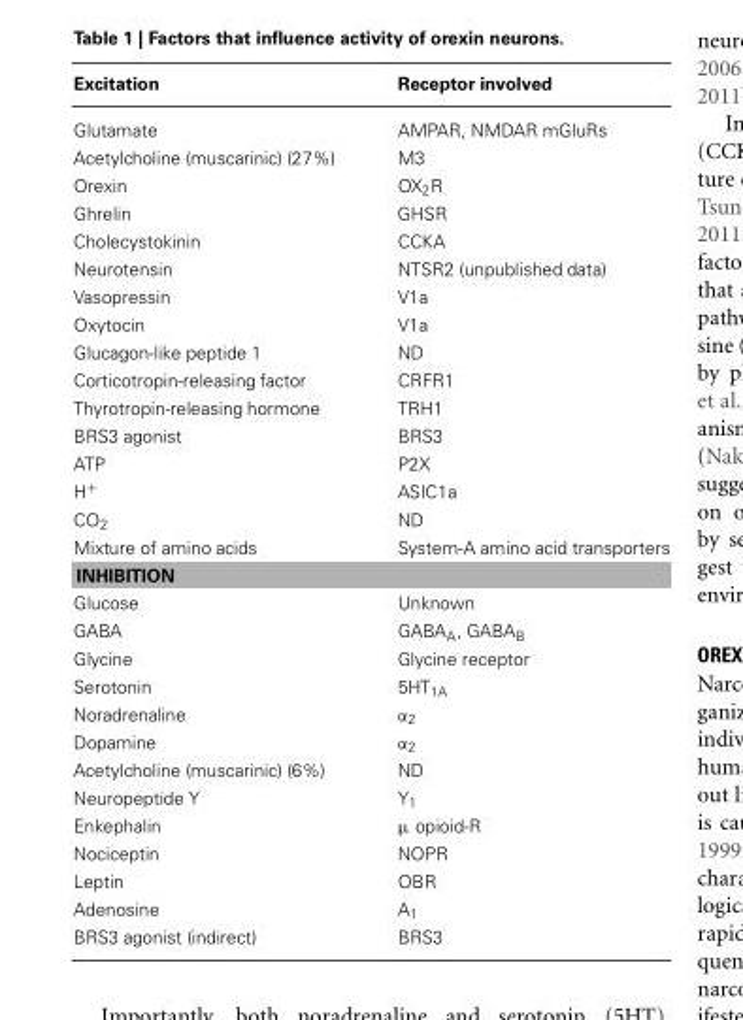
<table><thead><tr><td>Excitation</td><td>Receptor involved</td></tr></thead><tbody><tr><td>Glutamate</td><td>AMPAR, NMDAR mGluRs</td></tr><tr><td>Acetylcholine (muscarinic) (27%)</td><td>M3</td></tr><tr><td>Orexin</td><td>OX<sub>2</sub>R</td></tr><tr><td>Ghrelin</td><td>GHSR</td></tr><tr><td>Cholecystokinin</td><td>CCKA</td></tr><tr><td>Neurotensin</td><td>NTSR2 (unpublished data)</td></tr><tr><td>Vasopressin</td><td>V1a</td></tr><tr><td>Oxytocin</td><td>V1a</td></tr><tr><td>Glucagon-like peptide 1</td><td>ND</td></tr><tr><td>Corticotropin-releasing factor</td><td>CRFR1</td></tr><tr><td>Thyrotropin-releasing hormone</td><td>TRH1</td></tr><tr><td>BRS3 agonist</td><td>BRS3</td></tr><tr><td>ATP</td><td>P2X</td></tr><tr><td>H<sup>+</sup></td><td>ASIC1a</td></tr><tr><td>CO<sub>2</sub></td><td>ND</td></tr><tr><td>Mixture of amino acids</td><td>System-A amino acid transporters</td></tr><tr><td colspan="2">INHIBITION</td></tr><tr><td>Glucose</td><td>Unknown</td></tr><tr><td>GABA</td><td>GABA<sub>A</sub>, GABA<sub>B</sub></td></tr><tr><td>Glycine</td><td>Glycine receptor</td></tr><tr><td>Serotonin</td><td>5HT<sub>1A</sub></td></tr><tr><td>Noradrenaline</td><td>α<sub>2</sub></td></tr><tr><td>Dopamine</td><td>α<sub>2</sub></td></tr><tr><td>Acetylcholine (muscarinic) (6%)</td><td>ND</td></tr><tr><td>Neuropeptide Y</td><td>Y<sub>1</sub></td></tr><tr><td>Enkephalin</td><td>μ opioid-R</td></tr><tr><td>Nociceptin</td><td>NOPR</td></tr><tr><td>Leptin</td><td>OBR</td></tr><tr><td>Adenosine</td><td>A<sub>1</sub></td></tr><tr><td>BRS3 agonist (indirect)</td><td>BRS3</td></tr></tbody></table>